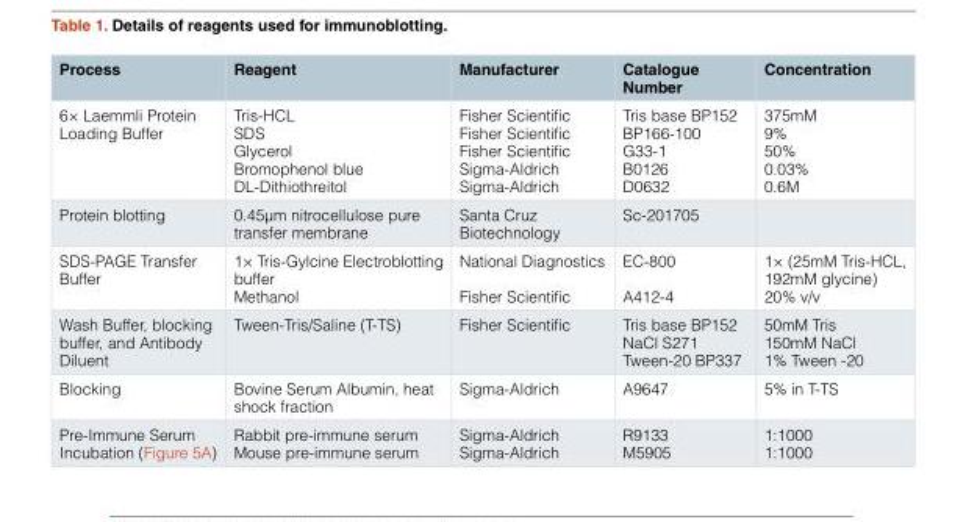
<table><thead><tr><td>Process</td><td>Reagent</td><td>Manufacturer</td><td>Catalogue Number</td><td>Concentration</td></tr></thead><tbody><tr><td>6× Laemmli Protein Loading Buffer</td><td>Tris-HCL SDS Glycerol Bromophenol blue DL-Dithiothreitol</td><td>Fisher Scientific Fisher Scientific Fisher Scientific Sigma-Aldrich Sigma-Aldrich</td><td>Tris base BP152 BP166-100 G33-1 B0126 D0632</td><td>375mM 9% 50% 0.03% 0.6M</td></tr><tr><td>Protein blotting</td><td>0.45μm nitrocellulose pure transfer membrane</td><td>Santa Cruz Biotechnology</td><td>Sc-201705</td><td></td></tr><tr><td>SDS-PAGE Transfer Buffer</td><td>1× Tris-Gylcine Electroblotting buffer Methanol</td><td>National Diagnostics Fisher Scientific</td><td>EC-800 A412-4</td><td>1× (25mM Tris-HCL, 192mM glycine) 20% v/v</td></tr><tr><td>Wash Buffer, blocking buffer, and Antibody Diluent</td><td>Tween-Tris/Saline (T-TS)</td><td>Fisher Scientific</td><td>Tris base BP152 NaCl S271 Tween-20 BP337</td><td>50mM Tris 150mM NaCl 1% Tween -20</td></tr><tr><td>Blocking</td><td>Bovine Serum Albumin, heat shock fraction</td><td>Sigma-Aldrich</td><td>A9647</td><td>5% in T-TS</td></tr><tr><td>Pre-Immune Serum Incubation (Figure 5A)</td><td>Rabbit pre-immune serum Mouse pre-immune serum</td><td>Sigma-Aldrich Sigma-Aldrich</td><td>R9133 M5905</td><td>1:1000 1:1000</td></tr></tbody></table>